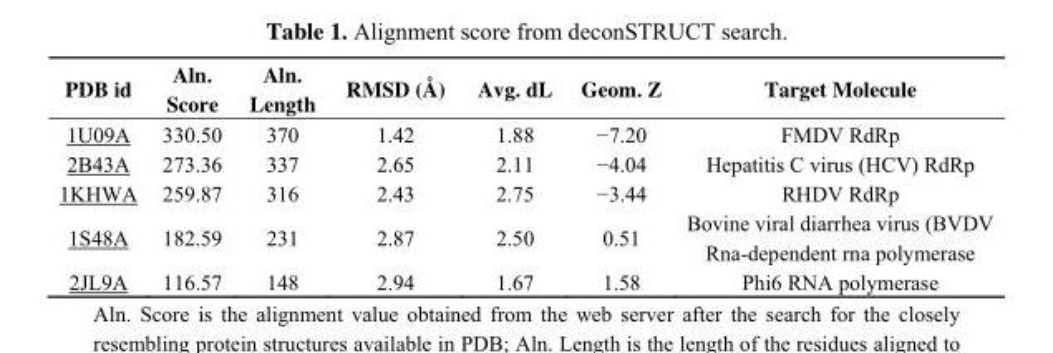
<table><thead><tr><td>PDB id</td><td>Aln. Score</td><td>Aln. Length</td><td>RMSD (Å)</td><td>Avg. dL</td><td>Geom. Z</td><td>Target Molecule</td></tr></thead><tbody><tr><td>1U09A</td><td>330.50</td><td>370</td><td>1.42</td><td>1.88</td><td>−7.20</td><td>FMDV RdRp</td></tr><tr><td>2B43A</td><td>273.36</td><td>337</td><td>2.65</td><td>2.11</td><td>−4.04</td><td>Hepatitis C virus (HCV) RdRp</td></tr><tr><td>1KHWA</td><td>259.87</td><td>316</td><td>2.43</td><td>2.75</td><td>−3.44</td><td>RHDV RdRp</td></tr><tr><td>1S48A</td><td>182.59</td><td>231</td><td>2.87</td><td>2.50</td><td>0.51</td><td>Bovine viral diarrhea virus (BVDV Rna-dependent rna polymerase</td></tr><tr><td>2JL9A</td><td>116.57</td><td>148</td><td>2.94</td><td>1.67</td><td>1.58</td><td>Phi6 RNA polymerase</td></tr></tbody></table>